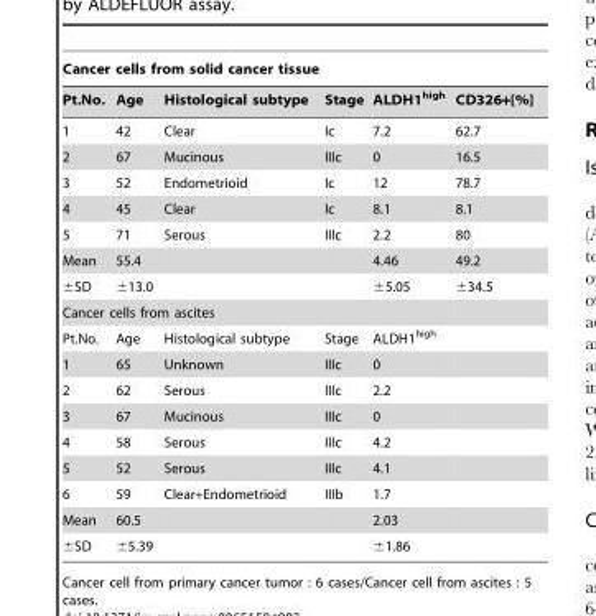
<table><thead><tr><td colspan="6">Cancer cells from solid cancer tissue</td></tr><tr><td>Pt.No.</td><td>Age</td><td>Histological subtype</td><td>Stage</td><td>ALDH1<sup>high</sup></td><td>CD326+[%]</td></tr></thead><tbody><tr><td>1</td><td>42</td><td>Clear</td><td>Ic</td><td>7.2</td><td>62.7</td></tr><tr><td>2</td><td>67</td><td>Mucinous</td><td>IIIc</td><td>0</td><td>16.5</td></tr><tr><td>3</td><td>52</td><td>Endometrioid</td><td>Ic</td><td>12</td><td>78.7</td></tr><tr><td>4</td><td>45</td><td>Clear</td><td>Ic</td><td>8.1</td><td>8.1</td></tr><tr><td>5</td><td>71</td><td>Serous</td><td>IIIc</td><td>2.2</td><td>80</td></tr><tr><td>Mean</td><td>55.4</td><td></td><td></td><td>4.46</td><td>49.2</td></tr><tr><td>±SD</td><td>±13.0</td><td></td><td></td><td>±5.05</td><td>±34.5</td></tr><tr><td colspan="6">Cancer cells from ascites</td></tr><tr><td>Pt.No.</td><td>Age</td><td>Histological subtype</td><td>Stage</td><td>ALDH1<sup>high</sup></td><td></td></tr><tr><td>1</td><td>65</td><td>Unknown</td><td>IIIc</td><td>0</td><td></td></tr><tr><td>2</td><td>62</td><td>Serous</td><td>IIIc</td><td>2.2</td><td></td></tr><tr><td>3</td><td>67</td><td>Mucinous</td><td>IIIc</td><td>0</td><td></td></tr><tr><td>4</td><td>58</td><td>Serous</td><td>IIIc</td><td>4.2</td><td></td></tr><tr><td>5</td><td>52</td><td>Serous</td><td>IIIc</td><td>4.1</td><td></td></tr><tr><td>6</td><td>59</td><td>Clear+Endometrioid</td><td>IIIb</td><td>1.7</td><td></td></tr><tr><td>Mean</td><td>60.5</td><td></td><td></td><td>2.03</td><td></td></tr><tr><td>±SD</td><td>±5.39</td><td></td><td></td><td>±1.86</td><td></td></tr></tbody></table>